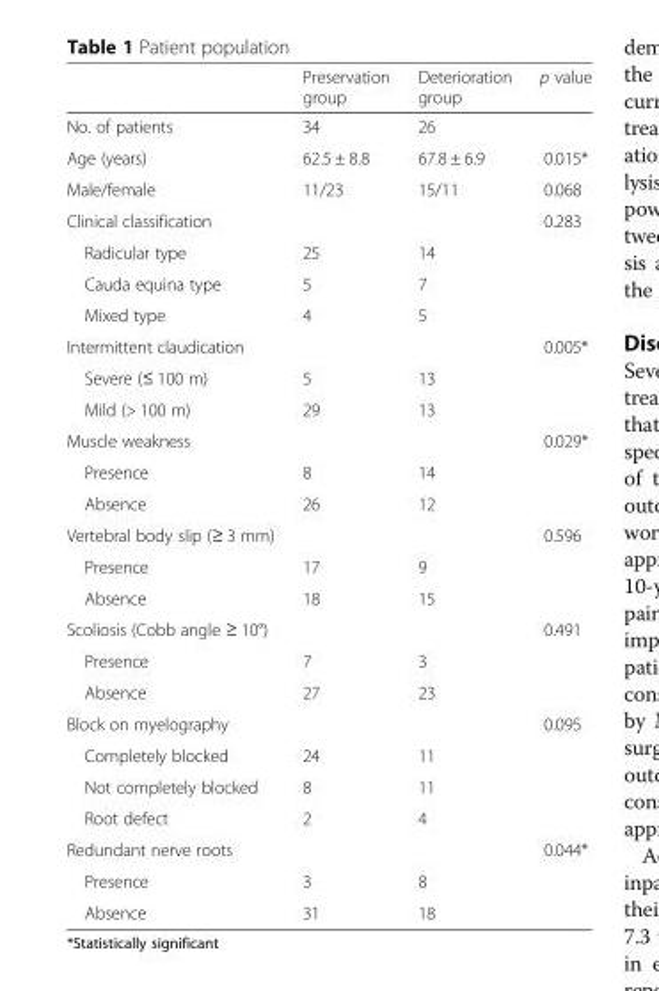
<table><thead><tr><td></td><td>Preservation group</td><td>Deterioration group</td><td>p value</td></tr></thead><tbody><tr><td>No. of patients</td><td>34</td><td>26</td><td></td></tr><tr><td>Age (years)</td><td>62.5 ± 8.8</td><td>67.8 ± 6.9</td><td>0.015*</td></tr><tr><td>Male/female</td><td>11/23</td><td>15/11</td><td>0.068</td></tr><tr><td>Clinical classification</td><td></td><td></td><td>0.283</td></tr><tr><td>Radicular type</td><td>25</td><td>14</td><td></td></tr><tr><td>Cauda equina type</td><td>5</td><td>7</td><td></td></tr><tr><td>Mixed type</td><td>4</td><td>5</td><td></td></tr><tr><td>Intermittent claudication</td><td></td><td></td><td>0.005*</td></tr><tr><td>Severe (≤ 100 m)</td><td>5</td><td>13</td><td></td></tr><tr><td>Mild (&gt; 100 m)</td><td>29</td><td>13</td><td></td></tr><tr><td>Muscle weakness</td><td></td><td></td><td>0.029*</td></tr><tr><td>Presence</td><td>8</td><td>14</td><td></td></tr><tr><td>Absence</td><td>26</td><td>12</td><td></td></tr><tr><td>Vertebral body slip (≥ 3 mm)</td><td></td><td></td><td>0.596</td></tr><tr><td>Presence</td><td>17</td><td>9</td><td></td></tr><tr><td>Absence</td><td>18</td><td>15</td><td></td></tr><tr><td>Scoliosis (Cobb angle ≥ 10°)</td><td></td><td></td><td>0.491</td></tr><tr><td>Presence</td><td>7</td><td>3</td><td></td></tr><tr><td>Absence</td><td>27</td><td>23</td><td></td></tr><tr><td>Block on myelography</td><td></td><td></td><td>0.095</td></tr><tr><td>Completely blocked</td><td>24</td><td>11</td><td></td></tr><tr><td>Not completely blocked</td><td>8</td><td>11</td><td></td></tr><tr><td>Root defect</td><td>2</td><td>4</td><td></td></tr><tr><td>Redundant nerve roots</td><td></td><td></td><td>0.044*</td></tr><tr><td>Presence</td><td>3</td><td>8</td><td></td></tr><tr><td>Absence</td><td>31</td><td>18</td><td></td></tr></tbody></table>